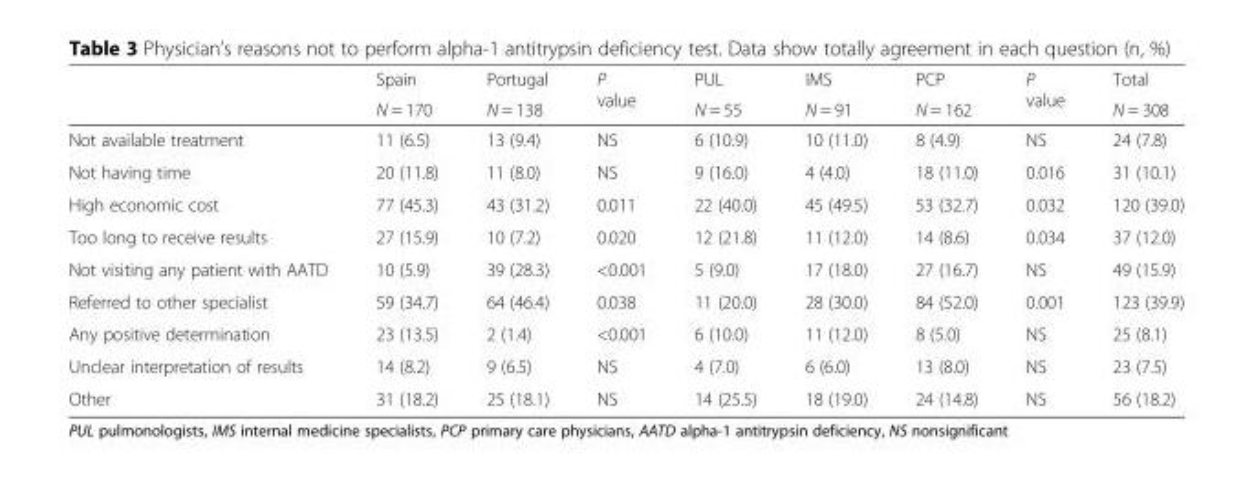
<table><thead><tr><td rowspan="2"></td><td rowspan="2">Spain N = 170</td><td rowspan="2">Portugal N = 138</td><td rowspan="2">P value</td><td rowspan="2">PUL N = 55</td><td rowspan="2">IMS N = 91</td><td rowspan="2">PCP N = 162</td><td rowspan="2">P value</td><td rowspan="2">Total N = 308</td></tr><tr></tr></thead><tbody><tr><td>Not available treatment</td><td>11 (6.5)</td><td>13 (9.4)</td><td>NS</td><td>6 (10.9)</td><td>10 (11.0)</td><td>8 (4.9)</td><td>NS</td><td>24 (7.8)</td></tr><tr><td>Not having time</td><td>20 (11.8)</td><td>11 (8.0)</td><td>NS</td><td>9 (16.0)</td><td>4 (4.0)</td><td>18 (11.0)</td><td>0.016</td><td>31 (10.1)</td></tr><tr><td>High economic cost</td><td>77 (45.3)</td><td>43 (31.2)</td><td>0.011</td><td>22 (40.0)</td><td>45 (49.5)</td><td>53 (32.7)</td><td>0.032</td><td>120 (39.0)</td></tr><tr><td>Too long to receive results</td><td>27 (15.9)</td><td>10 (7.2)</td><td>0.020</td><td>12 (21.8)</td><td>11 (12.0)</td><td>14 (8.6)</td><td>0.034</td><td>37 (12.0)</td></tr><tr><td>Not visiting any patient with AATD</td><td>10 (5.9)</td><td>39 (28.3)</td><td>&lt;0.001</td><td>5 (9.0)</td><td>17 (18.0)</td><td>27 (16.7)</td><td>NS</td><td>49 (15.9)</td></tr><tr><td>Referred to other specialist</td><td>59 (34.7)</td><td>64 (46.4)</td><td>0.038</td><td>11 (20.0)</td><td>28 (30.0)</td><td>84 (52.0)</td><td>0.001</td><td>123 (39.9)</td></tr><tr><td>Any positive determination</td><td>23 (13.5)</td><td>2 (1.4)</td><td>&lt;0.001</td><td>6 (10.0)</td><td>11 (12.0)</td><td>8 (5.0)</td><td>NS</td><td>25 (8.1)</td></tr><tr><td>Unclear interpretation of results</td><td>14 (8.2)</td><td>9 (6.5)</td><td>NS</td><td>4 (7.0)</td><td>6 (6.0)</td><td>13 (8.0)</td><td>NS</td><td>23 (7.5)</td></tr><tr><td>Other</td><td>31 (18.2)</td><td>25 (18.1)</td><td>NS</td><td>14 (25.5)</td><td>18 (19.0)</td><td>24 (14.8)</td><td>NS</td><td>56 (18.2)</td></tr></tbody></table>